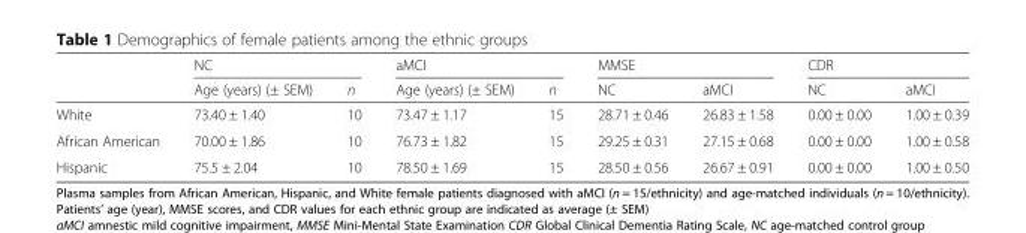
<table><thead><tr><td rowspan="2"></td><td colspan="2">NC</td><td colspan="2">aMCI</td><td colspan="2">MMSE</td><td colspan="2">CDR</td></tr><tr><td>Age (years) (± SEM)</td><td>n</td><td>Age (years) (± SEM)</td><td>n</td><td>NC</td><td>aMCI</td><td>NC</td><td>aMCI</td></tr></thead><tbody><tr><td>White</td><td>73.40 ± 1.40</td><td>10</td><td>73.47 ± 1.17</td><td>15</td><td>28.71 ± 0.46</td><td>26.83 ± 1.58</td><td>0.00 ± 0.00</td><td>1.00 ± 0.39</td></tr><tr><td>African American</td><td>70.00 ± 1.86</td><td>10</td><td>76.73 ± 1.82</td><td>15</td><td>29.25 ± 0.31</td><td>27.15 ± 0.68</td><td>0.00 ± 0.00</td><td>1.00 ± 0.58</td></tr><tr><td>Hispanic</td><td>75.5 ± 2.04</td><td>10</td><td>78.50 ± 1.69</td><td>15</td><td>28.50 ± 0.56</td><td>26.67 ± 0.91</td><td>0.00 ± 0.00</td><td>1.00 ± 0.50</td></tr></tbody></table>